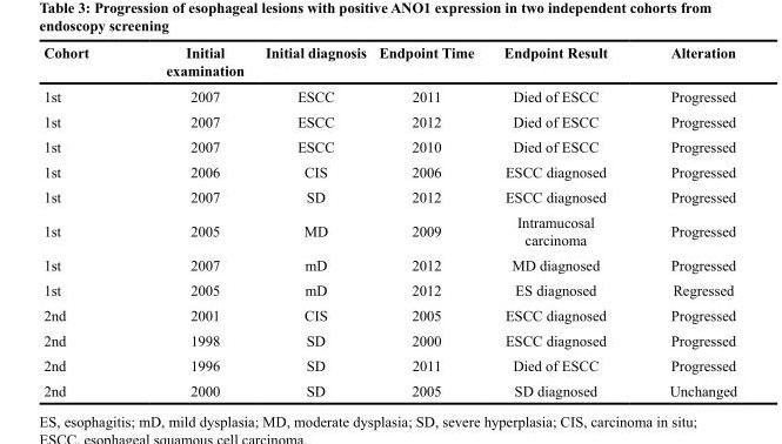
<table><thead><tr><td>Cohort</td><td>Initial examination</td><td>Initial diagnosis</td><td>Endpoint Time</td><td>Endpoint Result</td><td>Alteration</td></tr></thead><tbody><tr><td>1st</td><td>2007</td><td>ESCC</td><td>2011</td><td>Died of ESCC</td><td>Progressed</td></tr><tr><td>1st</td><td>2007</td><td>ESCC</td><td>2012</td><td>Died of ESCC</td><td>Progressed</td></tr><tr><td>1st</td><td>2007</td><td>ESCC</td><td>2010</td><td>Died of ESCC</td><td>Progressed</td></tr><tr><td>1st</td><td>2006</td><td>CIS</td><td>2006</td><td>ESCC diagnosed</td><td>Progressed</td></tr><tr><td>1st</td><td>2007</td><td>SD</td><td>2012</td><td>ESCC diagnosed</td><td>Progressed</td></tr><tr><td>1st</td><td>2005</td><td>MD</td><td>2009</td><td>Intramucosal carcinoma</td><td>Progressed</td></tr><tr><td>1st</td><td>2007</td><td>mD</td><td>2012</td><td>MD diagnosed</td><td>Progressed</td></tr><tr><td>1st</td><td>2005</td><td>mD</td><td>2012</td><td>ES diagnosed</td><td>Regressed</td></tr><tr><td>2nd</td><td>2001</td><td>CIS</td><td>2005</td><td>ESCC diagnosed</td><td>Progressed</td></tr><tr><td>2nd</td><td>1998</td><td>SD</td><td>2000</td><td>ESCC diagnosed</td><td>Progressed</td></tr><tr><td>2nd</td><td>1996</td><td>SD</td><td>2011</td><td>Died of ESCC</td><td>Progressed</td></tr><tr><td>2nd</td><td>2000</td><td>SD</td><td>2005</td><td>SD diagnosed</td><td>Unchanged</td></tr></tbody></table>